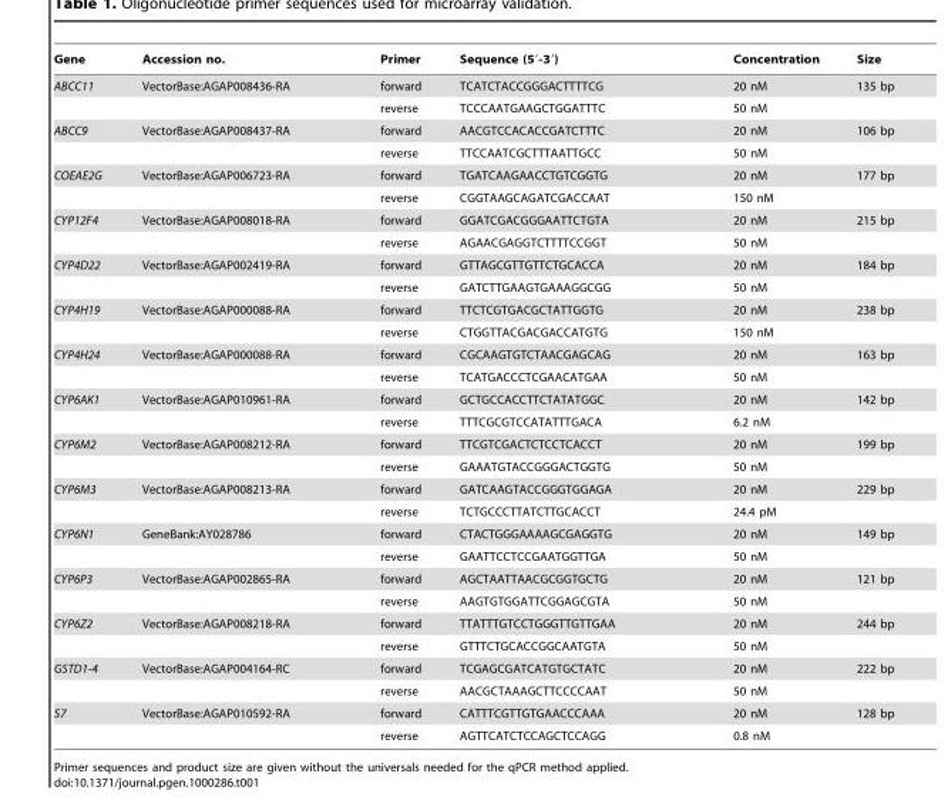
<table><thead><tr><td>Gene</td><td>Accession no.</td><td>Primer</td><td>Sequence (5′-3′)</td><td>Concentration</td><td>Size</td></tr></thead><tbody><tr><td rowspan="2">ABCC11</td><td>VectorBase:AGAP008436-RA</td><td>forward</td><td>TCATCTACCGGGACTTTTCG</td><td>20 nM</td><td>135 bp</td></tr><tr><td></td><td>reverse</td><td>TCCCAATGAAGCTGGATTTC</td><td>50 nM</td><td></td></tr><tr><td rowspan="2">ABCC9</td><td>VectorBase:AGAP008437-RA</td><td>forward</td><td>AACGTCCACACCGATCTTTC</td><td>20 nM</td><td>106 bp</td></tr><tr><td></td><td>reverse</td><td>TTCCAATCGCTTTAATTGCC</td><td>50 nM</td><td></td></tr><tr><td rowspan="2">COEAE2G</td><td>VectorBase:AGAP006723-RA</td><td>forward</td><td>TGATCAAGAACCTGTCGGTG</td><td>20 nM</td><td>177 bp</td></tr><tr><td></td><td>reverse</td><td>CGGTAAGCAGATCGACCAAT</td><td>150 nM</td><td></td></tr><tr><td rowspan="2">CYP12F4</td><td>VectorBase:AGAP008018-RA</td><td>forward</td><td>GGATCGACGGGAATTCTGTA</td><td>20 nM</td><td>215 bp</td></tr><tr><td></td><td>reverse</td><td>AGAACGAGGTCTTTTCCGGT</td><td>50 nM</td><td></td></tr><tr><td rowspan="2">CYP4D22</td><td>VectorBase:AGAP002419-RA</td><td>forward</td><td>GTTAGCGTTGTTCTGCACCA</td><td>20 nM</td><td>184 bp</td></tr><tr><td></td><td>reverse</td><td>GATCTTGAAGTGAAAGGCGG</td><td>50 nM</td><td></td></tr><tr><td rowspan="2">CYP4H19</td><td>VectorBase:AGAP000088-RA</td><td>forward</td><td>TTCTCGTGACGCTATTGGTG</td><td>20 nM</td><td>238 bp</td></tr><tr><td></td><td>reverse</td><td>CTGGTTACGACGACCATGTG</td><td>150 nM</td><td></td></tr><tr><td rowspan="2">CYP4H24</td><td>VectorBase:AGAP000088-RA</td><td>forward</td><td>CGCAAGTGTCTAACGAGCAG</td><td>20 nM</td><td>163 bp</td></tr><tr><td></td><td>reverse</td><td>TCATGACCCTCGAACATGAA</td><td>50 nM</td><td></td></tr><tr><td rowspan="2">CYP6AK1</td><td>VectorBase:AGAP010961-RA</td><td>forward</td><td>GCTGCCACCTTCTATATGGC</td><td>20 nM</td><td>142 bp</td></tr><tr><td></td><td>reverse</td><td>TTTCGCGTCCATATTTGACA</td><td>6.2 nM</td><td></td></tr><tr><td rowspan="2">CYP6M2</td><td>VectorBase:AGAP008212-RA</td><td>forward</td><td>TTCGTCGACTCTCCTCACCT</td><td>20 nM</td><td>199 bp</td></tr><tr><td></td><td>reverse</td><td>GAAATGTACCGGGACTGGTG</td><td>50 nM</td><td></td></tr><tr><td rowspan="2">CYP6M3</td><td>VectorBase:AGAP008213-RA</td><td>forward</td><td>GATCAAGTACCGGGTGGAGA</td><td>20 nM</td><td>229 bp</td></tr><tr><td></td><td>reverse</td><td>TCTGCCCTTATCTTGCACCT</td><td>24.4 pM</td><td></td></tr><tr><td rowspan="2">CYP6N1</td><td>GeneBank:AY028786</td><td>forward</td><td>CTACTGGGAAAAGCGAGGTG</td><td>20 nM</td><td>149 bp</td></tr><tr><td></td><td>reverse</td><td>GAATTCCTCCGAATGGTTGA</td><td>50 nM</td><td></td></tr><tr><td rowspan="2">CYP6P3</td><td>VectorBase:AGAP002865-RA</td><td>forward</td><td>AGCTAATTAACGCGGTGCTG</td><td>20 nM</td><td>121 bp</td></tr><tr><td></td><td>reverse</td><td>AAGTGTGGATTCGGAGCGTA</td><td>50 nM</td><td></td></tr><tr><td rowspan="2">CYP6Z2</td><td>VectorBase:AGAP008218-RA</td><td>forward</td><td>TTATTTGTCCTGGGTTGTTGAA</td><td>20 nM</td><td>244 bp</td></tr><tr><td></td><td>reverse</td><td>GTTTCTGCACCGGCAATGTA</td><td>50 nM</td><td></td></tr><tr><td rowspan="2">GSTD1-4</td><td>VectorBase:AGAP004164-RC</td><td>forward</td><td>TCGAGCGATCATGTGCTATC</td><td>20 nM</td><td>222 bp</td></tr><tr><td></td><td>reverse</td><td>AACGCTAAAGCTTCCCCAAT</td><td>50 nM</td><td></td></tr><tr><td rowspan="2">S7</td><td>VectorBase:AGAP010592-RA</td><td>forward</td><td>CATTTCGTTGTGAACCCAAA</td><td>20 nM</td><td>128 bp</td></tr><tr><td></td><td>reverse</td><td>AGTTCATCTCCAGCTCCAGG</td><td>0.8 nM</td><td></td></tr></tbody></table>